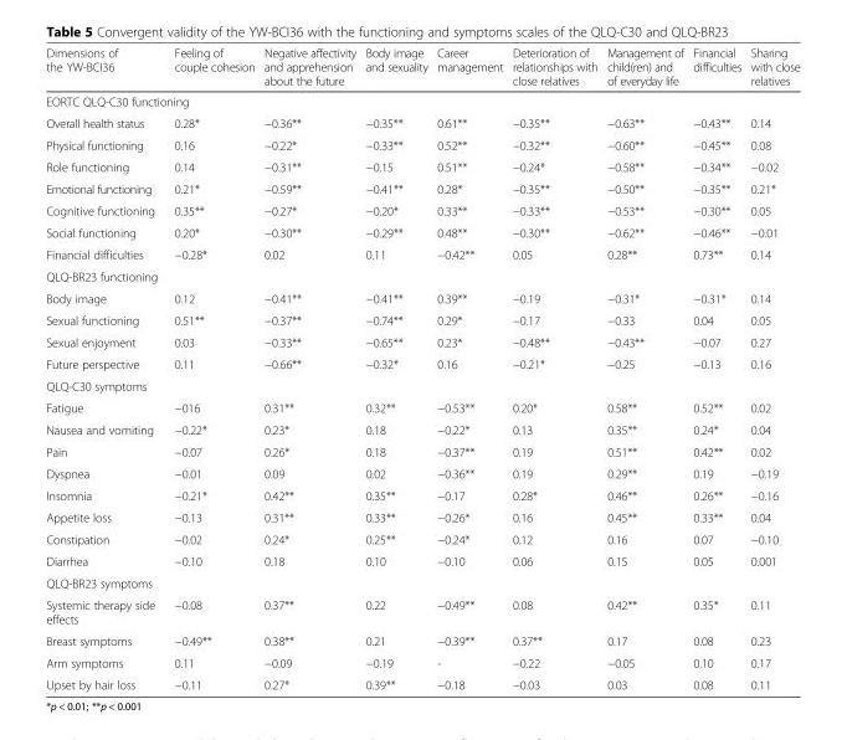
<table><thead><tr><td>Dimensions of the YW-BCI36</td><td>Feeling of couple cohesion</td><td>Negative affectivity and apprehension about the future</td><td>Body image and sexuality</td><td>Career management</td><td>Deterioration of relationships with close relatives</td><td>Management of child(ren) and of everyday life</td><td>Financial difficulties</td><td>Sharing with close relatives</td></tr></thead><tbody><tr><td colspan="9">EORTC QLQ-C30 functioning</td></tr><tr><td>Overall health status</td><td>0.28*</td><td>−0.36**</td><td>−0.35**</td><td>0.61**</td><td>−0.35**</td><td>−0.63**</td><td>−0.43**</td><td>0.14</td></tr><tr><td>Physical functioning</td><td>0.16</td><td>−0.22*</td><td>−0.33**</td><td>0.52**</td><td>−0.32**</td><td>−0.60**</td><td>−0.45**</td><td>0.08</td></tr><tr><td>Role functioning</td><td>0.14</td><td>−0.31**</td><td>−0.15</td><td>0.51**</td><td>−0.24*</td><td>−0.58**</td><td>−0.34**</td><td>−0.02</td></tr><tr><td>Emotional functioning</td><td>0.21*</td><td>−0.59**</td><td>−0.41**</td><td>0.28*</td><td>−0.35**</td><td>−0.50**</td><td>−0.35**</td><td>0.21*</td></tr><tr><td>Cognitive functioning</td><td>0.35**</td><td>−0.27*</td><td>−0.20*</td><td>0.33**</td><td>−0.33**</td><td>−0.53**</td><td>−0.30**</td><td>0.05</td></tr><tr><td>Social functioning</td><td>0.20*</td><td>−0.30**</td><td>−0.29**</td><td>0.48**</td><td>−0.30**</td><td>−0.62**</td><td>−0.46**</td><td>−0.01</td></tr><tr><td>Financial difficulties</td><td>−0.28*</td><td>0.02</td><td>0.11</td><td>−0.42**</td><td>0.05</td><td>0.28**</td><td>0.73**</td><td>0.14</td></tr><tr><td colspan="9">QLQ-BR23 functioning</td></tr><tr><td>Body image</td><td>0.12</td><td>−0.41**</td><td>−0.41**</td><td>0.39**</td><td>−0.19</td><td>−0.31*</td><td>−0.31*</td><td>0.14</td></tr><tr><td>Sexual functioning</td><td>0.51**</td><td>−0.37**</td><td>−0.74**</td><td>0.29*</td><td>−0.17</td><td>−0.33</td><td>0.04</td><td>0.05</td></tr><tr><td>Sexual enjoyment</td><td>0.03</td><td>−0.33**</td><td>−0.65**</td><td>0.23*</td><td>−0.48**</td><td>−0.43**</td><td>−0.07</td><td>0.27</td></tr><tr><td>Future perspective</td><td>0.11</td><td>−0.66**</td><td>−0.32*</td><td>0.16</td><td>−0.21*</td><td>−0.25</td><td>−0.13</td><td>0.16</td></tr><tr><td colspan="9">QLQ-C30 symptoms</td></tr><tr><td>Fatigue</td><td>−016</td><td>0.31**</td><td>0.32**</td><td>−0.53**</td><td>0.20*</td><td>0.58**</td><td>0.52**</td><td>0.02</td></tr><tr><td>Nausea and vomiting</td><td>−0.22*</td><td>0.23*</td><td>0.18</td><td>−0.22*</td><td>0.13</td><td>0.35**</td><td>0.24*</td><td>0.04</td></tr><tr><td>Pain</td><td>−0.07</td><td>0.26*</td><td>0.18</td><td>−0.37**</td><td>0.19</td><td>0.51**</td><td>0.42**</td><td>0.02</td></tr><tr><td>Dyspnea</td><td>−0.01</td><td>0.09</td><td>0.02</td><td>−0.36**</td><td>0.19</td><td>0.29**</td><td>0.19</td><td>−0.19</td></tr><tr><td>Insomnia</td><td>−0.21*</td><td>0.42**</td><td>0.35**</td><td>−0.17</td><td>0.28*</td><td>0.46**</td><td>0.26**</td><td>−0.16</td></tr><tr><td>Appetite loss</td><td>−0.13</td><td>0.31**</td><td>0.33**</td><td>−0.26*</td><td>0.16</td><td>0.45**</td><td>0.33**</td><td>0.04</td></tr><tr><td>Constipation</td><td>−0.02</td><td>0.24*</td><td>0.25**</td><td>−0.24*</td><td>0.12</td><td>0.16</td><td>0.07</td><td>−0.10</td></tr><tr><td>Diarrhea</td><td>−0.10</td><td>0.18</td><td>0.10</td><td>−0.10</td><td>0.06</td><td>0.15</td><td>0.05</td><td>0.001</td></tr><tr><td colspan="9">QLQ-BR23 symptoms</td></tr><tr><td>Systemic therapy side effects</td><td>−0.08</td><td>0.37**</td><td>0.22</td><td>−0.49**</td><td>0.08</td><td>0.42**</td><td>0.35*</td><td>0.11</td></tr><tr><td>Breast symptoms</td><td>−0.49**</td><td>0.38**</td><td>0.21</td><td>−0.39**</td><td>0.37**</td><td>0.17</td><td>0.08</td><td>0.23</td></tr><tr><td>Arm symptoms</td><td>0.11</td><td>−0.09</td><td>−0.19</td><td>-</td><td>−0.22</td><td>−0.05</td><td>0.10</td><td>0.17</td></tr><tr><td>Upset by hair loss</td><td>−0.11</td><td>0.27*</td><td>0.39**</td><td>−0.18</td><td>−0.03</td><td>0.03</td><td>0.08</td><td>0.11</td></tr></tbody></table>